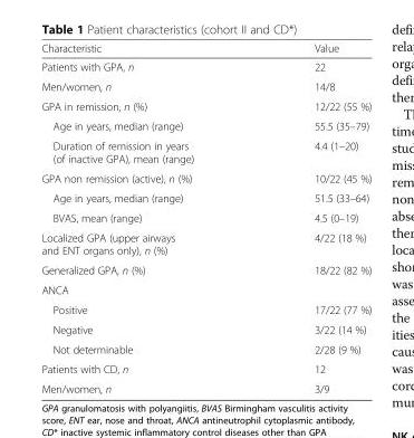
<table><thead><tr><td>Characteristic</td><td>Value</td></tr></thead><tbody><tr><td>Patients with GPA, n</td><td>22</td></tr><tr><td>Men/women, n</td><td>14/8</td></tr><tr><td>GPA in remission, n (%)</td><td>12/22 (55 %)</td></tr><tr><td>Age in years, median (range)</td><td>55.5 (35–79)</td></tr><tr><td>Duration of remission in years (of inactive GPA), mean (range)</td><td>4.4 (1–20)</td></tr><tr><td>GPA non remission (active), n (%)</td><td>10/22 (45 %)</td></tr><tr><td>Age in years, median (range)</td><td>51.5 (33–64)</td></tr><tr><td>BVAS, mean (range)</td><td>4.5 (0–19)</td></tr><tr><td>Localized GPA (upper airways and ENT organs only), n (%)</td><td>4/22 (18 %)</td></tr><tr><td>Generalized GPA, n (%)</td><td>18/22 (82 %)</td></tr><tr><td colspan="2">ANCA</td></tr><tr><td>Positive</td><td>17/22 (77 %)</td></tr><tr><td>Negative</td><td>3/22 (14 %)</td></tr><tr><td>Not determinable</td><td>2/28 (9 %)</td></tr><tr><td>Patients with CD, n</td><td>12</td></tr><tr><td>Men/women, n</td><td>3/9</td></tr></tbody></table>